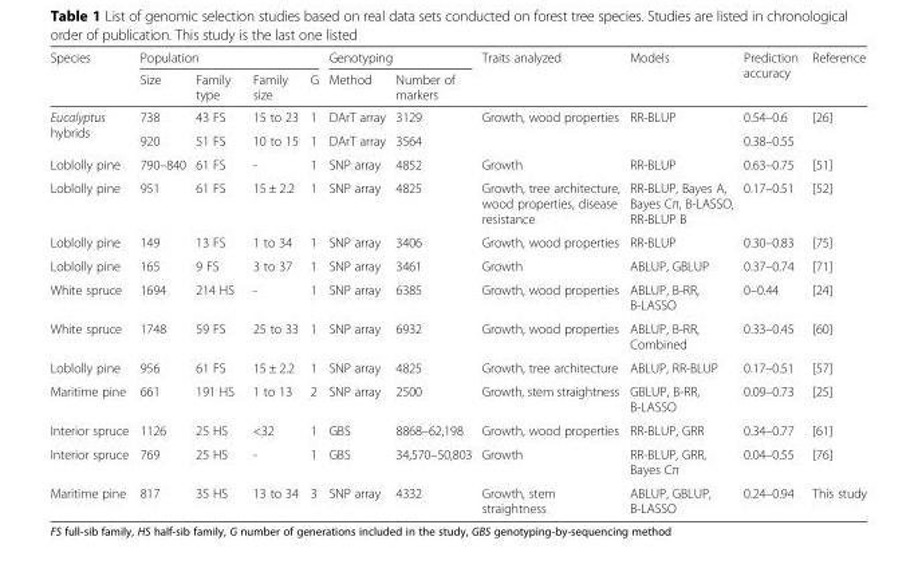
<table><thead><tr><td rowspan="2">Species</td><td colspan="4">Population</td><td colspan="2">Genotyping</td><td rowspan="2">Traits analyzed</td><td rowspan="2">Models</td><td rowspan="2">Prediction accuracy</td><td rowspan="2">Reference</td></tr><tr><td>Size</td><td>Family type</td><td>Family size</td><td>G</td><td>Method</td><td>Number of markers</td></tr></thead><tbody><tr><td rowspan="2">Eucalyptus hybrids</td><td>738</td><td>43 FS</td><td>15 to 23</td><td>1</td><td>DArT array</td><td>3129</td><td rowspan="2">Growth, wood properties</td><td rowspan="2">RR-BLUP</td><td>0.54–0.6</td><td rowspan="2">[26]</td></tr><tr><td>920</td><td>51 FS</td><td>10 to 15</td><td>1</td><td>DArT array</td><td>3564</td><td>0.38–0.55</td></tr><tr><td>Loblolly pine</td><td>790–840</td><td>61 FS</td><td>-</td><td>1</td><td>SNP array</td><td>4852</td><td>Growth</td><td>RR-BLUP</td><td>0.63–0.75</td><td>[51]</td></tr><tr><td>Loblolly pine</td><td>951</td><td>61 FS</td><td>15 ± 2.2</td><td>1</td><td>SNP array</td><td>4825</td><td>Growth, tree architecture, wood properties, disease resistance</td><td>RR-BLUP, Bayes A, Bayes Cπ, B-LASSO, RR-BLUP B</td><td>0.17–0.51</td><td>[52]</td></tr><tr><td>Loblolly pine</td><td>149</td><td>13 FS</td><td>1 to 34</td><td>1</td><td>SNP array</td><td>3406</td><td>Growth, wood properties</td><td>RR-BLUP</td><td>0.30–0.83</td><td>[75]</td></tr><tr><td>Loblolly pine</td><td>165</td><td>9 FS</td><td>3 to 37</td><td>1</td><td>SNP array</td><td>3461</td><td>Growth</td><td>ABLUP, GBLUP</td><td>0.37–0.74</td><td>[71]</td></tr><tr><td>White spruce</td><td>1694</td><td>214 HS</td><td>-</td><td>1</td><td>SNP array</td><td>6385</td><td>Growth, wood properties</td><td>ABLUP, B-RR, B-LASSO</td><td>0–0.44</td><td>[24]</td></tr><tr><td>White spruce</td><td>1748</td><td>59 FS</td><td>25 to 33</td><td>1</td><td>SNP array</td><td>6932</td><td>Growth, wood properties</td><td>ABLUP, B-RR, Combined</td><td>0.33–0.45</td><td>[60]</td></tr><tr><td>Loblolly pine</td><td>956</td><td>61 FS</td><td>15 ± 2.2</td><td>1</td><td>SNP array</td><td>4825</td><td>Growth, tree architecture</td><td>ABLUP, RR-BLUP</td><td>0.17–0.51</td><td>[57]</td></tr><tr><td>Maritime pine</td><td>661</td><td>191 HS</td><td>1 to 13</td><td>2</td><td>SNP array</td><td>2500</td><td>Growth, stem straightness</td><td>GBLUP, B-RR, B-LASSO</td><td>0.09–0.73</td><td>[25]</td></tr><tr><td>Interior spruce</td><td>1126</td><td>25 HS</td><td>&lt;32</td><td>1</td><td>GBS</td><td>8868–62,198</td><td>Growth, wood properties</td><td>RR-BLUP, GRR</td><td>0.34–0.77</td><td>[61]</td></tr><tr><td>Interior spruce</td><td>769</td><td>25 HS</td><td>-</td><td>1</td><td>GBS</td><td>34,570–50,803</td><td>Growth</td><td>RR-BLUP, GRR, Bayes Cπ</td><td>0.04–0.55</td><td>[76]</td></tr><tr><td>Maritime pine</td><td>817</td><td>35 HS</td><td>13 to 34</td><td>3</td><td>SNP array</td><td>4332</td><td>Growth, stem straightness</td><td>ABLUP, GBLUP, B-LASSO</td><td>0.24–0.94</td><td>This study</td></tr></tbody></table>